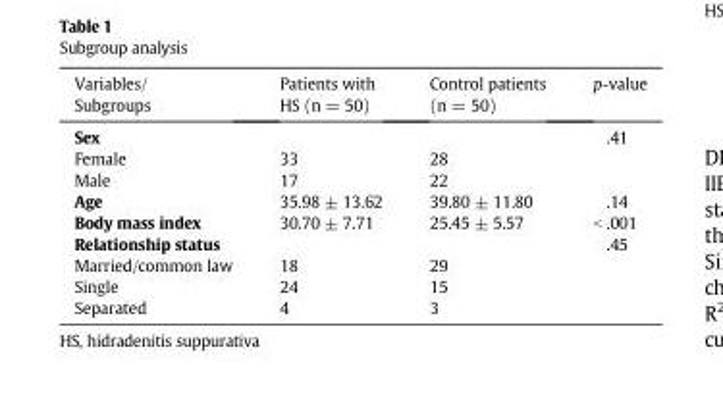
<table><thead><tr><td>Variables/ Subgroups</td><td>Patients with HS (n = 50)</td><td>Control patients (n = 50)</td><td>p-value</td></tr></thead><tbody><tr><td colspan="3">Sex</td><td rowspan="3">.41</td></tr><tr><td>Female</td><td>33</td><td>28</td></tr><tr><td>Male</td><td>17</td><td>22</td></tr><tr><td>Age</td><td>35.98 ± 13.62</td><td>39.80 ± 11.80</td><td>.14</td></tr><tr><td>Body mass index</td><td>30.70 ± 7.71</td><td>25.45 ± 5.57</td><td>&lt; .001</td></tr><tr><td colspan="3">Relationship status</td><td rowspan="4">.45</td></tr><tr><td>Married/common law</td><td>18</td><td>29</td></tr><tr><td>Single</td><td>24</td><td>15</td></tr><tr><td>Separated</td><td>4</td><td>3</td></tr></tbody></table>